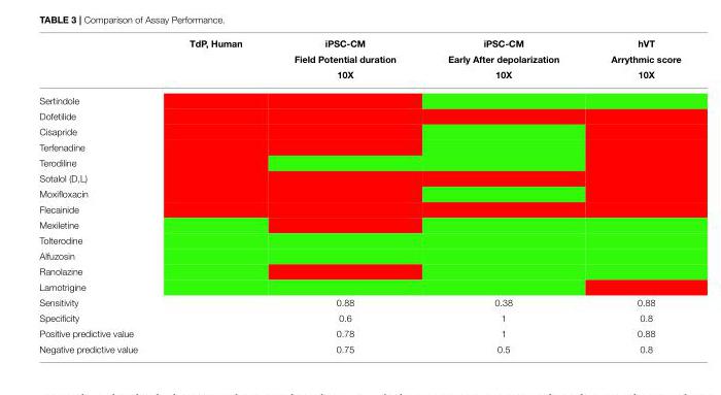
<table><thead><tr><td rowspan="3"></td><td rowspan="3">TdP, Human</td><td rowspan="3">iPSC-CM Field Potential duration 10X</td><td rowspan="3">iPSC-CM Early After depolarization 10X</td><td rowspan="3">hVT Arrythmic score 10X</td></tr><tr></tr><tr></tr></thead><tbody><tr><td colspan="5">Sertindole</td></tr><tr><td colspan="5">Dofetilide</td></tr><tr><td colspan="5">Cisapride</td></tr><tr><td colspan="5">Terfenadine</td></tr><tr><td colspan="5">Terodiline</td></tr><tr><td colspan="5">Sotalol (D,L)</td></tr><tr><td colspan="5">Moxifloxacin</td></tr><tr><td colspan="5">Flecainide</td></tr><tr><td colspan="5">Mexiletine</td></tr><tr><td colspan="5">Tolterodine</td></tr><tr><td colspan="5">Alfuzosin</td></tr><tr><td colspan="5">Ranolazine</td></tr><tr><td colspan="5">Lamotrigine</td></tr><tr><td>Sensitivity</td><td></td><td>0.88</td><td>0.38</td><td>0.88</td></tr><tr><td>Specificity</td><td></td><td>0.6</td><td>1</td><td>0.8</td></tr><tr><td>Positive predictive value</td><td></td><td>0.78</td><td>1</td><td>0.88</td></tr><tr><td>Negative predictive value</td><td></td><td>0.75</td><td>0.5</td><td>0.8</td></tr></tbody></table>